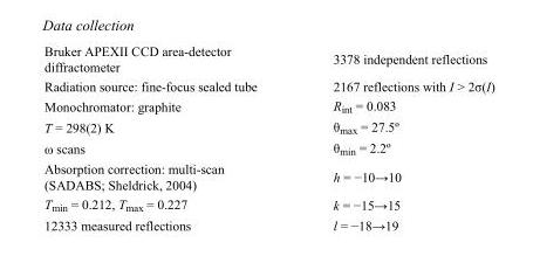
<table><tbody><tr><td>Bruker APEXII CCD area-detector diffractometer</td><td>3378 independent reflections</td></tr><tr><td>Radiation source: fine-focus sealed tube</td><td>2167 reflections with I &gt; 2σ(I)</td></tr><tr><td>Monochromator: graphite</td><td>R<sub>int</sub> = 0.083</td></tr><tr><td>T = 298(2) K</td><td>θ<sub>max</sub> = 27.5º</td></tr><tr><td>ω scans</td><td>θ<sub>min</sub> = 2.2º</td></tr><tr><td>Absorption correction: multi-scan (SADABS; Sheldrick, 2004)</td><td>h = −10→10</td></tr><tr><td>T<sub>min</sub> = 0.212, T<sub>max</sub> = 0.227</td><td>k = −15→15</td></tr><tr><td>12333 measured reflections</td><td>l = −18→19</td></tr></tbody></table>